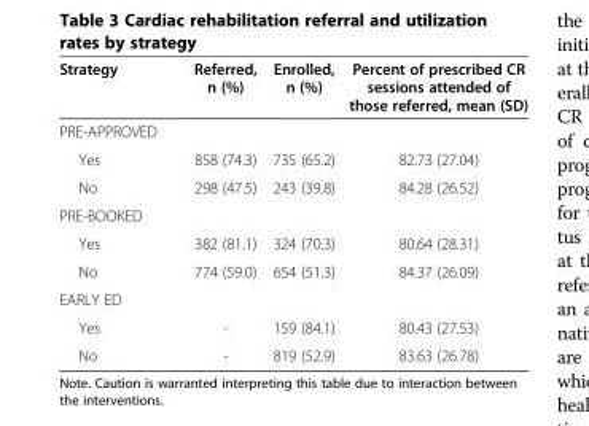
<table><thead><tr><td>Strategy</td><td>Referred, n (%)</td><td>Enrolled, n (%)</td><td>Percent of prescribed CR sessions attended of those referred, mean (SD)</td></tr></thead><tbody><tr><td colspan="4">PRE-APPROVED</td></tr><tr><td>Yes</td><td>858 (74.3)</td><td>735 (65.2)</td><td>82.73 (27.04)</td></tr><tr><td>No</td><td>298 (47.5)</td><td>243 (39.8)</td><td>84.28 (26.52)</td></tr><tr><td colspan="4">PRE-BOOKED</td></tr><tr><td>Yes</td><td>382 (81.1)</td><td>324 (70.3)</td><td>80.64 (28.31)</td></tr><tr><td>No</td><td>774 (59.0)</td><td>654 (51.3)</td><td>84.37 (26.09)</td></tr><tr><td colspan="4">EARLY ED</td></tr><tr><td>Yes</td><td>-</td><td>159 (84.1)</td><td>80.43 (27.53)</td></tr><tr><td>No</td><td>-</td><td>819 (52.9)</td><td>83.63 (26.78)</td></tr></tbody></table>